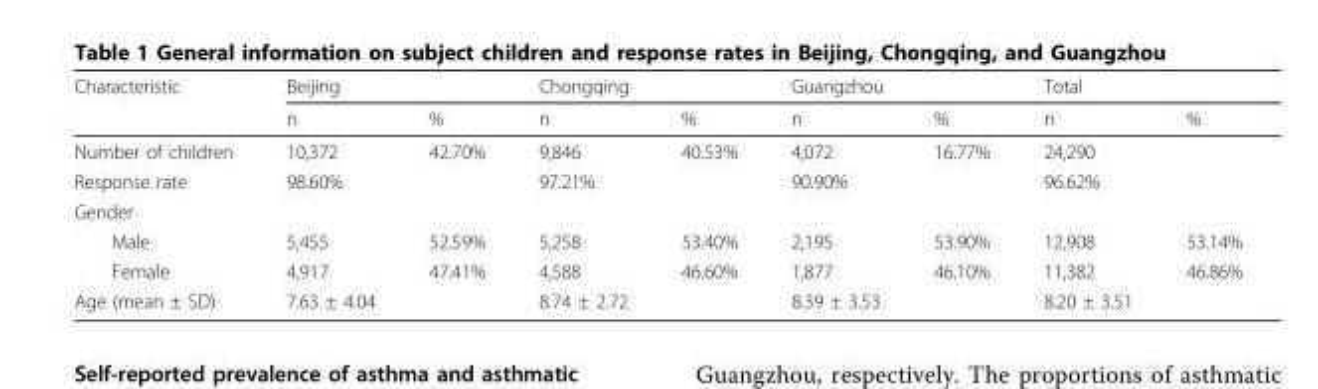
<table><thead><tr><td rowspan="2">Characteristic</td><td colspan="2">Beijing</td><td colspan="2">Chongqing</td><td colspan="2">Guangzhou</td><td rowspan="2">Total n</td><td rowspan="2">%</td></tr><tr><td>n</td><td>%</td><td>n</td><td>%</td><td>n</td><td>%</td></tr></thead><tbody><tr><td>Number of children</td><td>10,372</td><td>42.70%</td><td>9,846</td><td>40.53%</td><td>4,072</td><td>16.77%</td><td>24,290</td><td></td></tr><tr><td>Response rate</td><td>98.60%</td><td></td><td>97.21%</td><td></td><td>90.90%</td><td></td><td>96.62%</td><td></td></tr><tr><td colspan="9">Gender</td></tr><tr><td>Male</td><td>5,455</td><td>52.59%</td><td>5,258</td><td>53.40%</td><td>2,195</td><td>53.90%</td><td>12,908</td><td>53.14%</td></tr><tr><td>Female</td><td>4,917</td><td>47.41%</td><td>4,588</td><td>46.60%</td><td>1,877</td><td>46.10%</td><td>11,382</td><td>46.86%</td></tr><tr><td>Age (mean ± SD)</td><td>7.63 ± 4.04</td><td></td><td>8.74 ± 2.72</td><td></td><td>8.39 ± 3.53</td><td></td><td>8.20 ± 3.51</td><td></td></tr></tbody></table>